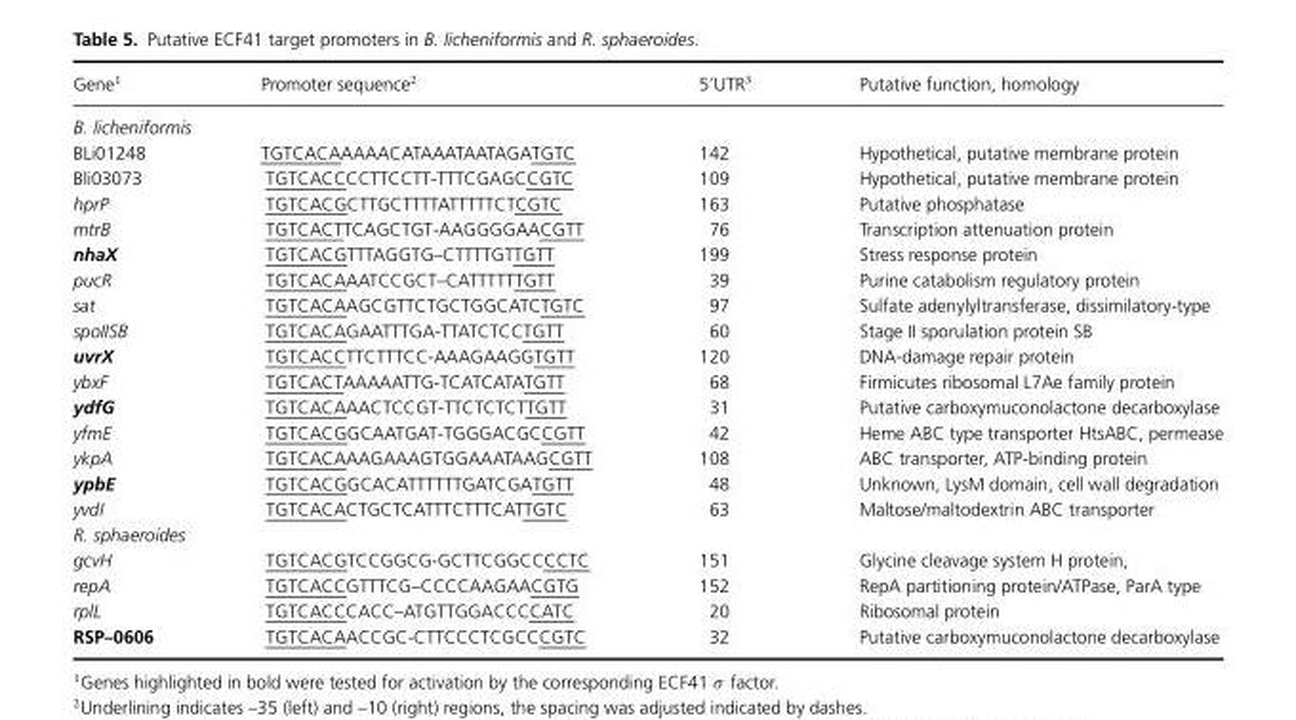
<table><thead><tr><td>Gene<sup>1</sup></td><td>Promoter sequence<sup>2</sup></td><td>5′UTR<sup>3</sup></td><td>Putative function, homology</td></tr></thead><tbody><tr><td colspan="4">B. licheniformis</td></tr><tr><td>BLi01248</td><td>TGTCACAAAAACATAAATAATAGATGTC</td><td>142</td><td>Hypothetical, putative membrane protein</td></tr><tr><td>Bli03073</td><td>TGTCACCCCTTCCTT-TTTCGAGCCGTC</td><td>109</td><td>Hypothetical, putative membrane protein</td></tr><tr><td>hprP</td><td>TGTCACGCTTGCTTTTATTTTTCTCGTC</td><td>163</td><td>Putative phosphatase</td></tr><tr><td>mtrB</td><td>TGTCACTTCAGCTGT-AAGGGGAACGTT</td><td>76</td><td>Transcription attenuation protein</td></tr><tr><td>nhaX</td><td>TGTCACGTTTAGGTG–CTTTTGTTGTT</td><td>199</td><td>Stress response protein</td></tr><tr><td>pucR</td><td>TGTCACAAATCCGCT–CATTTTTTGTT</td><td>39</td><td>Purine catabolism regulatory protein</td></tr><tr><td>sat</td><td>TGTCACAAGCGTTCTGCTGGCATCTGTC</td><td>97</td><td>Sulfate adenylyltransferase, dissimilatory-type</td></tr><tr><td>spoIISB</td><td>TGTCACAGAATTTGA-TTATCTCCTGTT</td><td>60</td><td>Stage II sporulation protein SB</td></tr><tr><td>uvrX</td><td>TGTCACCTTCTTTCC-AAAGAAGGTGTT</td><td>120</td><td>DNA-damage repair protein</td></tr><tr><td>ybxF</td><td>TGTCACTAAAAATTG-TCATCATATGTT</td><td>68</td><td>Firmicutes ribosomal L7Ae family protein</td></tr><tr><td>ydfG</td><td>TGTCACAAACTCCGT-TTCTCTCTTGTT</td><td>31</td><td>Putative carboxymuconolactone decarboxylase</td></tr><tr><td>yfmE</td><td>TGTCACGGCAATGAT-TGGGACGCCGTT</td><td>42</td><td>Heme ABC type transporter HtsABC, permease</td></tr><tr><td>ykpA</td><td>TGTCACAAAGAAAGTGGAAATAAGCGTT</td><td>108</td><td>ABC transporter, ATP-binding protein</td></tr><tr><td>ypbE</td><td>TGTCACGGCACATTTTTTGATCGATGTT</td><td>48</td><td>Unknown, LysM domain, cell wall degradation</td></tr><tr><td>yvdI</td><td>TGTCACACTGCTCATTTCTTTCATTGTC</td><td>63</td><td>Maltose/maltodextrin ABC transporter</td></tr><tr><td colspan="4">R. sphaeroides</td></tr><tr><td>gcvH</td><td>TGTCACGTCCGGCG-GCTTCGGCCCCTC</td><td>151</td><td>Glycine cleavage system H protein,</td></tr><tr><td>repA</td><td>TGTCACCGTTTCG–CCCCAAGAACGTG</td><td>152</td><td>RepA partitioning protein/ATPase, ParA type</td></tr><tr><td>rplL</td><td>TGTCACCCACC–ATGTTGGACCCCATC</td><td>20</td><td>Ribosomal protein</td></tr><tr><td>RSP–0606</td><td>TGTCACAACCGC-CTTCCCTCGCCCGTC</td><td>32</td><td>Putative carboxymuconolactone decarboxylase</td></tr></tbody></table>